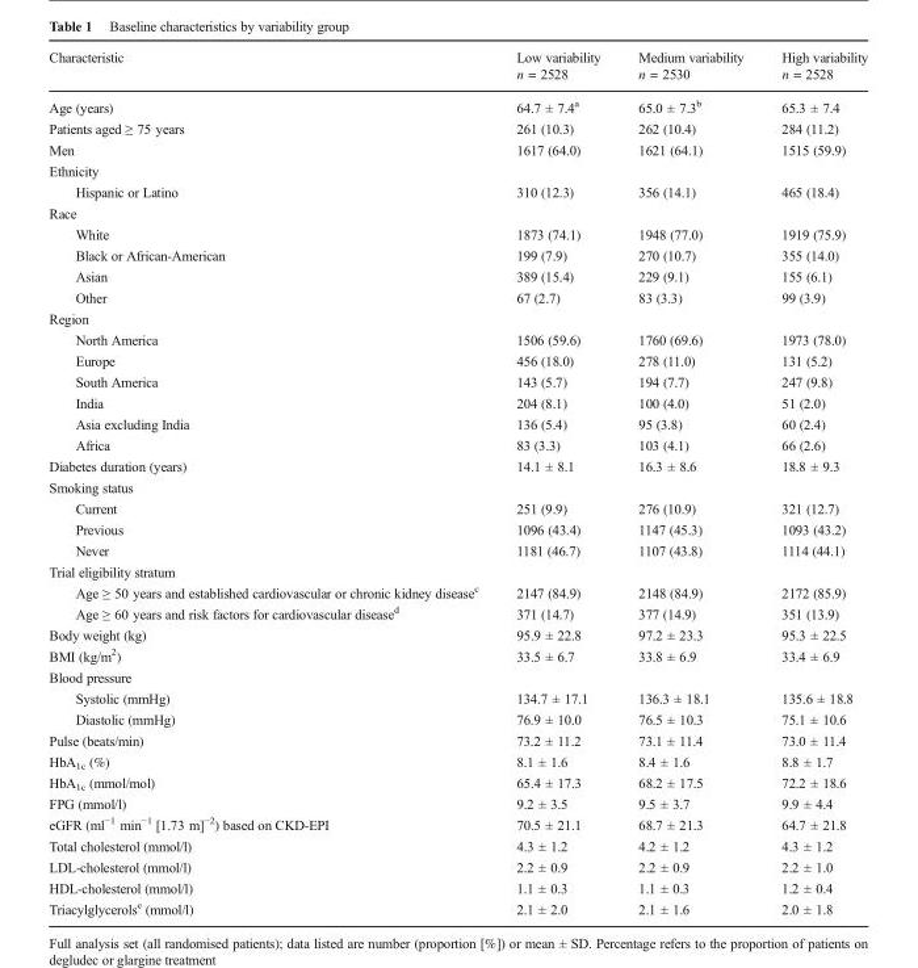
<table><thead><tr><td>Characteristic</td><td>Low variability n = 2528</td><td>Medium variability n = 2530</td><td>High variability n = 2528</td></tr></thead><tbody><tr><td>Age (years)</td><td>64.7 ± 7.4<sup>a</sup></td><td>65.0 ± 7.3<sup>b</sup></td><td>65.3 ± 7.4</td></tr><tr><td>Patients aged ≥ 75 years</td><td>261 (10.3)</td><td>262 (10.4)</td><td>284 (11.2)</td></tr><tr><td>Men</td><td>1617 (64.0)</td><td>1621 (64.1)</td><td>1515 (59.9)</td></tr><tr><td colspan="4">Ethnicity</td></tr><tr><td>Hispanic or Latino</td><td>310 (12.3)</td><td>356 (14.1)</td><td>465 (18.4)</td></tr><tr><td colspan="4">Race</td></tr><tr><td>White</td><td>1873 (74.1)</td><td>1948 (77.0)</td><td>1919 (75.9)</td></tr><tr><td>Black or African-American</td><td>199 (7.9)</td><td>270 (10.7)</td><td>355 (14.0)</td></tr><tr><td>Asian</td><td>389 (15.4)</td><td>229 (9.1)</td><td>155 (6.1)</td></tr><tr><td>Other</td><td>67 (2.7)</td><td>83 (3.3)</td><td>99 (3.9)</td></tr><tr><td colspan="4">Region</td></tr><tr><td>North America</td><td>1506 (59.6)</td><td>1760 (69.6)</td><td>1973 (78.0)</td></tr><tr><td>Europe</td><td>456 (18.0)</td><td>278 (11.0)</td><td>131 (5.2)</td></tr><tr><td>South America</td><td>143 (5.7)</td><td>194 (7.7)</td><td>247 (9.8)</td></tr><tr><td>India</td><td>204 (8.1)</td><td>100 (4.0)</td><td>51 (2.0)</td></tr><tr><td>Asia excluding India</td><td>136 (5.4)</td><td>95 (3.8)</td><td>60 (2.4)</td></tr><tr><td>Africa</td><td>83 (3.3)</td><td>103 (4.1)</td><td>66 (2.6)</td></tr><tr><td>Diabetes duration (years)</td><td>14.1 ± 8.1</td><td>16.3 ± 8.6</td><td>18.8 ± 9.3</td></tr><tr><td colspan="4">Smoking status</td></tr><tr><td>Current</td><td>251 (9.9)</td><td>276 (10.9)</td><td>321 (12.7)</td></tr><tr><td>Previous</td><td>1096 (43.4)</td><td>1147 (45.3)</td><td>1093 (43.2)</td></tr><tr><td>Never</td><td>1181 (46.7)</td><td>1107 (43.8)</td><td>1114 (44.1)</td></tr><tr><td colspan="4">Trial eligibility stratum</td></tr><tr><td>Age ≥ 50 years and established cardiovascular or chronic kidney disease<sup>c</sup></td><td>2147 (84.9)</td><td>2148 (84.9)</td><td>2172 (85.9)</td></tr><tr><td>Age ≥ 60 years and risk factors for cardiovascular disease<sup>d</sup></td><td>371 (14.7)</td><td>377 (14.9)</td><td>351 (13.9)</td></tr><tr><td>Body weight (kg)</td><td>95.9 ± 22.8</td><td>97.2 ± 23.3</td><td>95.3 ± 22.5</td></tr><tr><td>BMI (kg/m<sup>2</sup>)</td><td>33.5 ± 6.7</td><td>33.8 ± 6.9</td><td>33.4 ± 6.9</td></tr><tr><td colspan="4">Blood pressure</td></tr><tr><td>Systolic (mmHg)</td><td>134.7 ± 17.1</td><td>136.3 ± 18.1</td><td>135.6 ± 18.8</td></tr><tr><td>Diastolic (mmHg)</td><td>76.9 ± 10.0</td><td>76.5 ± 10.3</td><td>75.1 ± 10.6</td></tr><tr><td>Pulse (beats/min)</td><td>73.2 ± 11.2</td><td>73.1 ± 11.4</td><td>73.0 ± 11.4</td></tr><tr><td>HbA<sub>1c</sub> (%)</td><td>8.1 ± 1.6</td><td>8.4 ± 1.6</td><td>8.8 ± 1.7</td></tr><tr><td>HbA<sub>1c</sub> (mmol/mol)</td><td>65.4 ± 17.3</td><td>68.2 ± 17.5</td><td>72.2 ± 18.6</td></tr><tr><td>FPG (mmol/l)</td><td>9.2 ± 3.5</td><td>9.5 ± 3.7</td><td>9.9 ± 4.4</td></tr><tr><td>eGFR (ml<sup>−1</sup> min<sup>−1</sup> [1.73 m]<sup>−2</sup>) based on CKD-EPI</td><td>70.5 ± 21.1</td><td>68.7 ± 21.3</td><td>64.7 ± 21.8</td></tr><tr><td>Total cholesterol (mmol/l)</td><td>4.3 ± 1.2</td><td>4.2 ± 1.2</td><td>4.3 ± 1.2</td></tr><tr><td>LDL-cholesterol (mmol/l)</td><td>2.2 ± 0.9</td><td>2.2 ± 0.9</td><td>2.2 ± 1.0</td></tr><tr><td>HDL-cholesterol (mmol/l)</td><td>1.1 ± 0.3</td><td>1.1 ± 0.3</td><td>1.2 ± 0.4</td></tr><tr><td>Triacylglycerols<sup>e</sup> (mmol/l)</td><td>2.1 ± 2.0</td><td>2.1 ± 1.6</td><td>2.0 ± 1.8</td></tr></tbody></table>